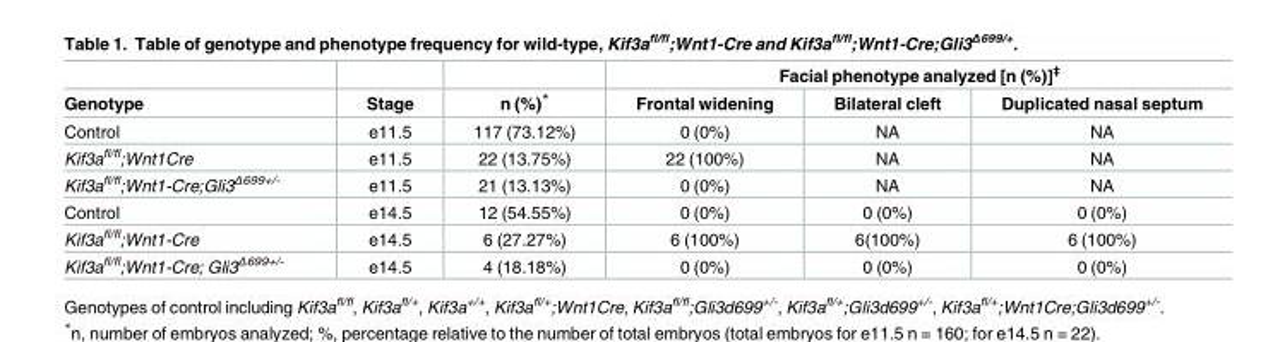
<table><thead><tr><td rowspan="2">Genotype</td><td rowspan="2">Stage</td><td rowspan="2">n (%)*</td><td colspan="3">Facial phenotype analyzed [n (%)]<sup>‡</sup></td></tr><tr><td>Frontal widening</td><td>Bilateral cleft</td><td>Duplicated nasal septum</td></tr></thead><tbody><tr><td>Control</td><td>e11.5</td><td>117 (73.12%)</td><td>0 (0%)</td><td>NA</td><td>NA</td></tr><tr><td>Kif3a<sup>fl/fl</sup>;Wnt1Cre</td><td>e11.5</td><td>22 (13.75%)</td><td>22 (100%)</td><td>NA</td><td>NA</td></tr><tr><td>Kif3a<sup>fl/fl</sup>;Wnt1-Cre;Gli3<sup>Δ699+/-</sup></td><td>e11.5</td><td>21 (13.13%)</td><td>0 (0%)</td><td>NA</td><td>NA</td></tr><tr><td>Control</td><td>e14.5</td><td>12 (54.55%)</td><td>0 (0%)</td><td>0 (0%)</td><td>0 (0%)</td></tr><tr><td>Kif3a<sup>fl/fl</sup>;Wnt1-Cre</td><td>e14.5</td><td>6 (27.27%)</td><td>6 (100%)</td><td>6(100%)</td><td>6 (100%)</td></tr><tr><td>Kif3a<sup>fl/fl</sup>;Wnt1-Cre; Gli3<sup>Δ699+/-</sup></td><td>e14.5</td><td>4 (18.18%)</td><td>0 (0%)</td><td>0 (0%)</td><td>0 (0%)</td></tr></tbody></table>